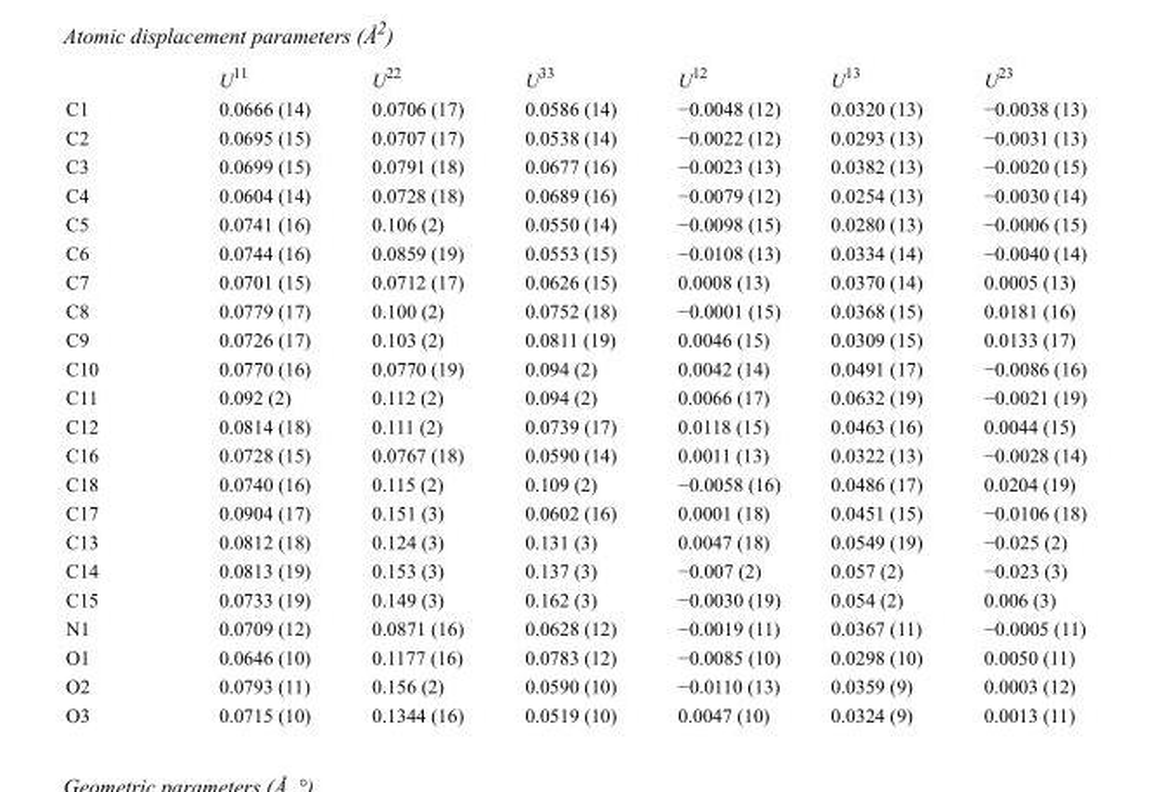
<table><thead><tr><td></td><td>U<sup>11</sup></td><td>U<sup>22</sup></td><td>U<sup>33</sup></td><td>U<sup>12</sup></td><td>U<sup>13</sup></td><td>U<sup>23</sup></td></tr></thead><tbody><tr><td>C1</td><td>0.0666 (14)</td><td>0.0706 (17)</td><td>0.0586 (14)</td><td>−0.0048 (12)</td><td>0.0320 (13)</td><td>−0.0038 (13)</td></tr><tr><td>C2</td><td>0.0695 (15)</td><td>0.0707 (17)</td><td>0.0538 (14)</td><td>−0.0022 (12)</td><td>0.0293 (13)</td><td>−0.0031 (13)</td></tr><tr><td>C3</td><td>0.0699 (15)</td><td>0.0791 (18)</td><td>0.0677 (16)</td><td>−0.0023 (13)</td><td>0.0382 (13)</td><td>−0.0020 (15)</td></tr><tr><td>C4</td><td>0.0604 (14)</td><td>0.0728 (18)</td><td>0.0689 (16)</td><td>−0.0079 (12)</td><td>0.0254 (13)</td><td>−0.0030 (14)</td></tr><tr><td>C5</td><td>0.0741 (16)</td><td>0.106 (2)</td><td>0.0550 (14)</td><td>−0.0098 (15)</td><td>0.0280 (13)</td><td>−0.0006 (15)</td></tr><tr><td>C6</td><td>0.0744 (16)</td><td>0.0859 (19)</td><td>0.0553 (15)</td><td>−0.0108 (13)</td><td>0.0334 (14)</td><td>−0.0040 (14)</td></tr><tr><td>C7</td><td>0.0701 (15)</td><td>0.0712 (17)</td><td>0.0626 (15)</td><td>0.0008 (13)</td><td>0.0370 (14)</td><td>0.0005 (13)</td></tr><tr><td>C8</td><td>0.0779 (17)</td><td>0.100 (2)</td><td>0.0752 (18)</td><td>−0.0001 (15)</td><td>0.0368 (15)</td><td>0.0181 (16)</td></tr><tr><td>C9</td><td>0.0726 (17)</td><td>0.103 (2)</td><td>0.0811 (19)</td><td>0.0046 (15)</td><td>0.0309 (15)</td><td>0.0133 (17)</td></tr><tr><td>C10</td><td>0.0770 (16)</td><td>0.0770 (19)</td><td>0.094 (2)</td><td>0.0042 (14)</td><td>0.0491 (17)</td><td>−0.0086 (16)</td></tr><tr><td>C11</td><td>0.092 (2)</td><td>0.112 (2)</td><td>0.094 (2)</td><td>0.0066 (17)</td><td>0.0632 (19)</td><td>−0.0021 (19)</td></tr><tr><td>C12</td><td>0.0814 (18)</td><td>0.111 (2)</td><td>0.0739 (17)</td><td>0.0118 (15)</td><td>0.0463 (16)</td><td>0.0044 (15)</td></tr><tr><td>C16</td><td>0.0728 (15)</td><td>0.0767 (18)</td><td>0.0590 (14)</td><td>0.0011 (13)</td><td>0.0322 (13)</td><td>−0.0028 (14)</td></tr><tr><td>C18</td><td>0.0740 (16)</td><td>0.115 (2)</td><td>0.109 (2)</td><td>−0.0058 (16)</td><td>0.0486 (17)</td><td>0.0204 (19)</td></tr><tr><td>C17</td><td>0.0904 (17)</td><td>0.151 (3)</td><td>0.0602 (16)</td><td>0.0001 (18)</td><td>0.0451 (15)</td><td>−0.0106 (18)</td></tr><tr><td>C13</td><td>0.0812 (18)</td><td>0.124 (3)</td><td>0.131 (3)</td><td>0.0047 (18)</td><td>0.0549 (19)</td><td>−0.025 (2)</td></tr><tr><td>C14</td><td>0.0813 (19)</td><td>0.153 (3)</td><td>0.137 (3)</td><td>−0.007 (2)</td><td>0.057 (2)</td><td>−0.023 (3)</td></tr><tr><td>C15</td><td>0.0733 (19)</td><td>0.149 (3)</td><td>0.162 (3)</td><td>−0.0030 (19)</td><td>0.054 (2)</td><td>0.006 (3)</td></tr><tr><td>N1</td><td>0.0709 (12)</td><td>0.0871 (16)</td><td>0.0628 (12)</td><td>−0.0019 (11)</td><td>0.0367 (11)</td><td>−0.0005 (11)</td></tr><tr><td>O1</td><td>0.0646 (10)</td><td>0.1177 (16)</td><td>0.0783 (12)</td><td>−0.0085 (10)</td><td>0.0298 (10)</td><td>0.0050 (11)</td></tr><tr><td>O2</td><td>0.0793 (11)</td><td>0.156 (2)</td><td>0.0590 (10)</td><td>−0.0110 (13)</td><td>0.0359 (9)</td><td>0.0003 (12)</td></tr><tr><td>O3</td><td>0.0715 (10)</td><td>0.1344 (16)</td><td>0.0519 (10)</td><td>0.0047 (10)</td><td>0.0324 (9)</td><td>0.0013 (11)</td></tr></tbody></table>